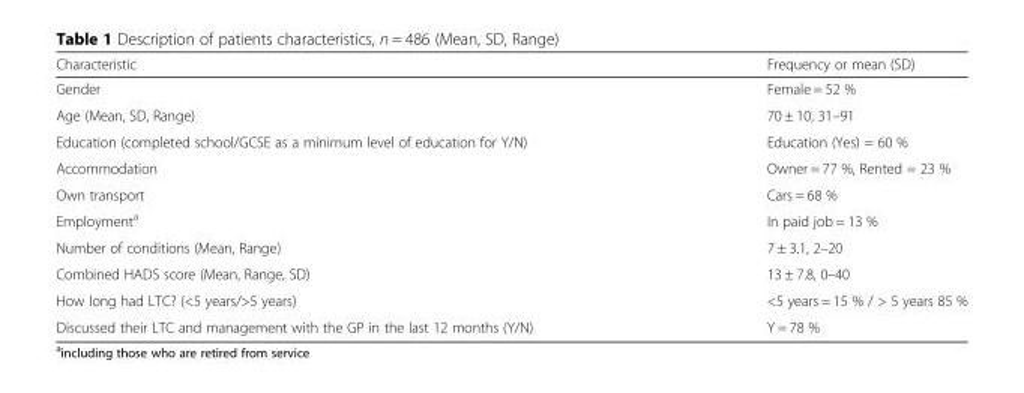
<table><thead><tr><td>Characteristic</td><td>Frequency or mean (SD)</td></tr></thead><tbody><tr><td>Gender</td><td>Female = 52 %</td></tr><tr><td>Age (Mean, SD, Range)</td><td>70 ± 10, 31–91</td></tr><tr><td>Education (completed school/GCSE as a minimum level of education for Y/N)</td><td>Education (Yes) = 60 %</td></tr><tr><td>Accommodation</td><td>Owner = 77 %, Rented = 23 %</td></tr><tr><td>Own transport</td><td>Cars = 68 %</td></tr><tr><td>Employment<sup>a</sup></td><td>In paid job = 13 %</td></tr><tr><td>Number of conditions (Mean, Range)</td><td>7 ± 3.1, 2–20</td></tr><tr><td>Combined HADS score (Mean, Range, SD)</td><td>13 ± 7.8, 0–40</td></tr><tr><td>How long had LTC? (&lt;5 years/&gt;5 years)</td><td>&lt;5 years = 15 % / &gt; 5 years 85 %</td></tr><tr><td>Discussed their LTC and management with the GP in the last 12 months (Y/N)</td><td>Y = 78 %</td></tr></tbody></table>